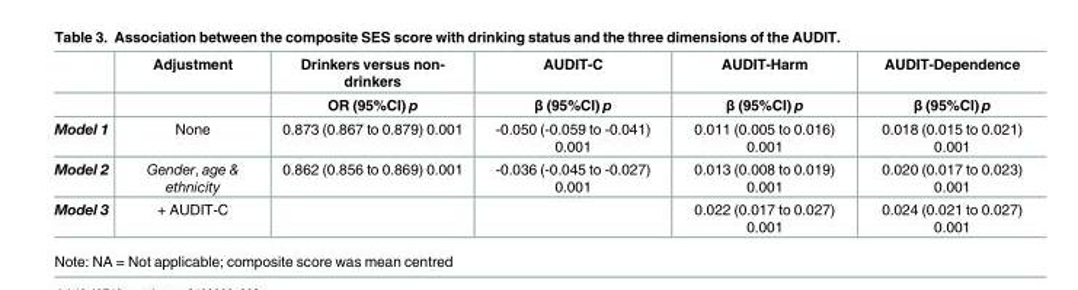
<table><thead><tr><td rowspan="2"></td><td rowspan="2">Adjustment</td><td rowspan="2">Drinkers versus non- drinkers OR (95%CI) p</td><td rowspan="2">AUDIT-C β (95%CI) p</td><td rowspan="2">AUDIT-Harm β (95%CI) p</td><td rowspan="2">AUDIT-Dependence β (95%CI) p</td></tr><tr></tr></thead><tbody><tr><td>Model 1</td><td>None</td><td>0.873 (0.867 to 0.879) 0.001</td><td>-0.050 (-0.059 to -0.041) 0.001</td><td>0.011 (0.005 to 0.016) 0.001</td><td>0.018 (0.015 to 0.021) 0.001</td></tr><tr><td>Model 2</td><td>Gender, age &amp; ethnicity</td><td>0.862 (0.856 to 0.869) 0.001</td><td>-0.036 (-0.045 to -0.027) 0.001</td><td>0.013 (0.008 to 0.019) 0.001</td><td>0.020 (0.017 to 0.023) 0.001</td></tr><tr><td>Model 3</td><td>+ AUDIT-C</td><td></td><td></td><td>0.022 (0.017 to 0.027) 0.001</td><td>0.024 (0.021 to 0.027) 0.001</td></tr></tbody></table>